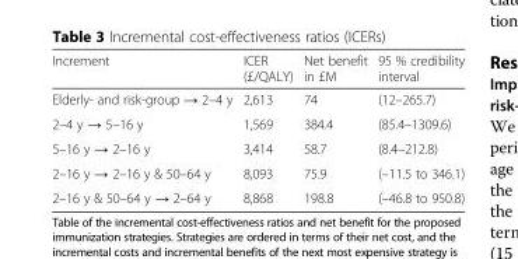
<table><thead><tr><td>Increment</td><td>ICER (£/QALY)</td><td>Net benefit in £M</td><td>95 % credibility interval</td></tr></thead><tbody><tr><td>Elderly- and risk-group → 2–4 y</td><td>2,613</td><td>74</td><td>(12–265.7)</td></tr><tr><td>2–4 y → 5–16 y</td><td>1,569</td><td>384.4</td><td>(85.4–1309.6)</td></tr><tr><td>5–16 y → 2–16 y</td><td>3,414</td><td>58.7</td><td>(8.4–212.8)</td></tr><tr><td>2–16 y → 2–16 y &amp; 50–64 y</td><td>8,093</td><td>75.9</td><td>(–11.5 to 346.1)</td></tr><tr><td>2–16 y &amp; 50–64 y → 2–64 y</td><td>8,868</td><td>198.8</td><td>(–46.8 to 950.8)</td></tr></tbody></table>